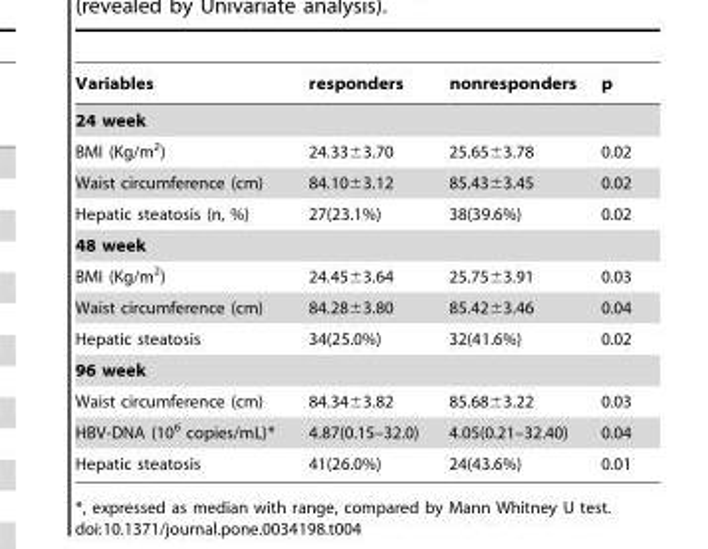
<table><thead><tr><td>Variables</td><td>responders</td><td>nonresponders</td><td>p</td></tr></thead><tbody><tr><td colspan="4">24 week</td></tr><tr><td>BMI (Kg/m<sup>2</sup>)</td><td>24.33±3.70</td><td>25.65±3.78</td><td>0.02</td></tr><tr><td>Waist circumference (cm)</td><td>84.10±3.12</td><td>85.43±3.45</td><td>0.02</td></tr><tr><td>Hepatic steatosis (n, %)</td><td>27(23.1%)</td><td>38(39.6%)</td><td>0.02</td></tr><tr><td colspan="4">48 week</td></tr><tr><td>BMI (Kg/m<sup>2</sup>)</td><td>24.45±3.64</td><td>25.75±3.91</td><td>0.03</td></tr><tr><td>Waist circumference (cm)</td><td>84.28±3.80</td><td>85.42±3.46</td><td>0.04</td></tr><tr><td>Hepatic steatosis</td><td>34(25.0%)</td><td>32(41.6%)</td><td>0.02</td></tr><tr><td colspan="4">96 week</td></tr><tr><td>Waist circumference (cm)</td><td>84.34±3.82</td><td>85.68±3.22</td><td>0.03</td></tr><tr><td>HBV-DNA (10<sup>6</sup> copies/mL)*</td><td>4.87(0.15–32.0)</td><td>4.05(0.21–32.40)</td><td>0.04</td></tr><tr><td>Hepatic steatosis</td><td>41(26.0%)</td><td>24(43.6%)</td><td>0.01</td></tr></tbody></table>